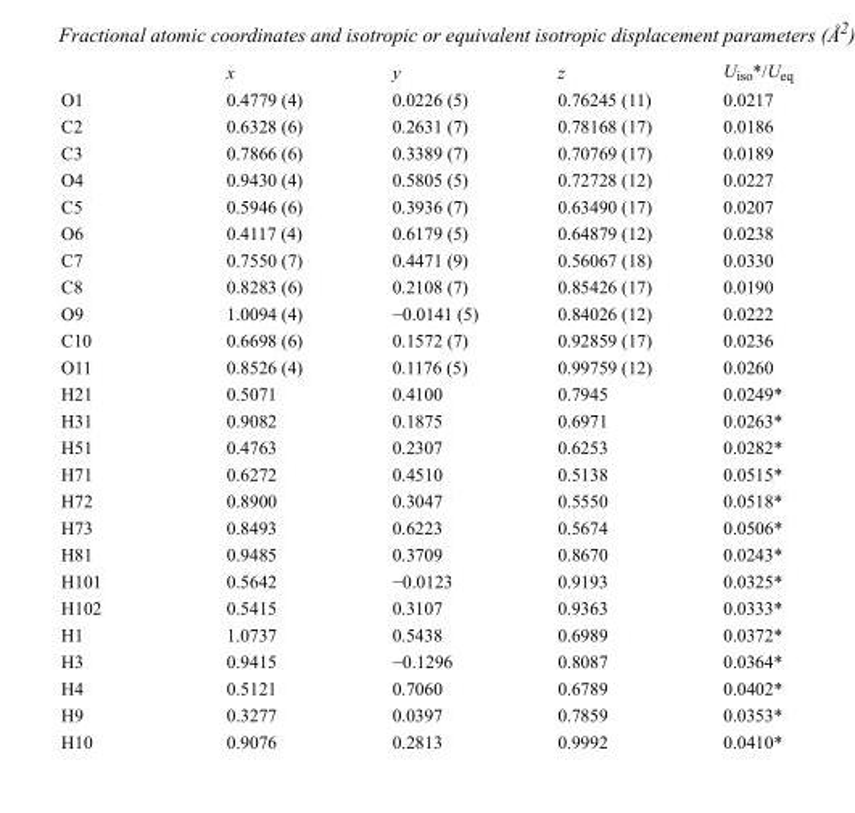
<table><thead><tr><td></td><td>x</td><td>y</td><td>z</td><td>U<sub>iso</sub>*/U<sub>eq</sub></td></tr></thead><tbody><tr><td>O1</td><td>0.4779 (4)</td><td>0.0226 (5)</td><td>0.76245 (11)</td><td>0.0217</td></tr><tr><td>C2</td><td>0.6328 (6)</td><td>0.2631 (7)</td><td>0.78168 (17)</td><td>0.0186</td></tr><tr><td>C3</td><td>0.7866 (6)</td><td>0.3389 (7)</td><td>0.70769 (17)</td><td>0.0189</td></tr><tr><td>O4</td><td>0.9430 (4)</td><td>0.5805 (5)</td><td>0.72728 (12)</td><td>0.0227</td></tr><tr><td>C5</td><td>0.5946 (6)</td><td>0.3936 (7)</td><td>0.63490 (17)</td><td>0.0207</td></tr><tr><td>O6</td><td>0.4117 (4)</td><td>0.6179 (5)</td><td>0.64879 (12)</td><td>0.0238</td></tr><tr><td>C7</td><td>0.7550 (7)</td><td>0.4471 (9)</td><td>0.56067 (18)</td><td>0.0330</td></tr><tr><td>C8</td><td>0.8283 (6)</td><td>0.2108 (7)</td><td>0.85426 (17)</td><td>0.0190</td></tr><tr><td>O9</td><td>1.0094 (4)</td><td>−0.0141 (5)</td><td>0.84026 (12)</td><td>0.0222</td></tr><tr><td>C10</td><td>0.6698 (6)</td><td>0.1572 (7)</td><td>0.92859 (17)</td><td>0.0236</td></tr><tr><td>O11</td><td>0.8526 (4)</td><td>0.1176 (5)</td><td>0.99759 (12)</td><td>0.0260</td></tr><tr><td>H21</td><td>0.5071</td><td>0.4100</td><td>0.7945</td><td>0.0249*</td></tr><tr><td>H31</td><td>0.9082</td><td>0.1875</td><td>0.6971</td><td>0.0263*</td></tr><tr><td>H51</td><td>0.4763</td><td>0.2307</td><td>0.6253</td><td>0.0282*</td></tr><tr><td>H71</td><td>0.6272</td><td>0.4510</td><td>0.5138</td><td>0.0515*</td></tr><tr><td>H72</td><td>0.8900</td><td>0.3047</td><td>0.5550</td><td>0.0518*</td></tr><tr><td>H73</td><td>0.8493</td><td>0.6223</td><td>0.5674</td><td>0.0506*</td></tr><tr><td>H81</td><td>0.9485</td><td>0.3709</td><td>0.8670</td><td>0.0243*</td></tr><tr><td>H101</td><td>0.5642</td><td>−0.0123</td><td>0.9193</td><td>0.0325*</td></tr><tr><td>H102</td><td>0.5415</td><td>0.3107</td><td>0.9363</td><td>0.0333*</td></tr><tr><td>H1</td><td>1.0737</td><td>0.5438</td><td>0.6989</td><td>0.0372*</td></tr><tr><td>H3</td><td>0.9415</td><td>−0.1296</td><td>0.8087</td><td>0.0364*</td></tr><tr><td>H4</td><td>0.5121</td><td>0.7060</td><td>0.6789</td><td>0.0402*</td></tr><tr><td>H9</td><td>0.3277</td><td>0.0397</td><td>0.7859</td><td>0.0353*</td></tr><tr><td>H10</td><td>0.9076</td><td>0.2813</td><td>0.9992</td><td>0.0410*</td></tr></tbody></table>